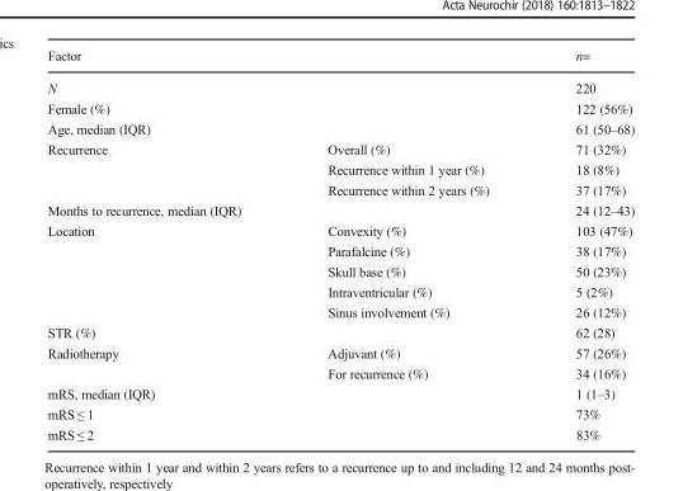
<table><thead><tr><td colspan="2">Factor</td><td rowspan="2">n= 220</td></tr><tr><td>N</td><td></td></tr></thead><tbody><tr><td>Female (%)</td><td></td><td>122 (56%)</td></tr><tr><td>Age, median (IQR)</td><td></td><td>61 (50–68)</td></tr><tr><td rowspan="3">Recurrence</td><td>Overall (%)</td><td>71 (32%)</td></tr><tr><td>Recurrence within 1 year (%)</td><td>18 (8%)</td></tr><tr><td>Recurrence within 2 years (%)</td><td>37 (17%)</td></tr><tr><td>Months to recurrence, median (IQR)</td><td></td><td>24 (12–43)</td></tr><tr><td rowspan="5">Location</td><td>Convexity (%)</td><td>103 (47%)</td></tr><tr><td>Parafalcine (%)</td><td>38 (17%)</td></tr><tr><td>Skull base (%)</td><td>50 (23%)</td></tr><tr><td>Intraventricular (%)</td><td>5 (2%)</td></tr><tr><td>Sinus involvement (%)</td><td>26 (12%)</td></tr><tr><td>STR (%)</td><td></td><td>62 (28)</td></tr><tr><td rowspan="2">Radiotherapy</td><td>Adjuvant (%)</td><td>57 (26%)</td></tr><tr><td>For recurrence (%)</td><td>34 (16%)</td></tr><tr><td>mRS, median (IQR)</td><td></td><td>1 (1–3)</td></tr><tr><td>mRS ≤ 1</td><td></td><td>73%</td></tr><tr><td>mRS ≤ 2</td><td></td><td>83%</td></tr></tbody></table>